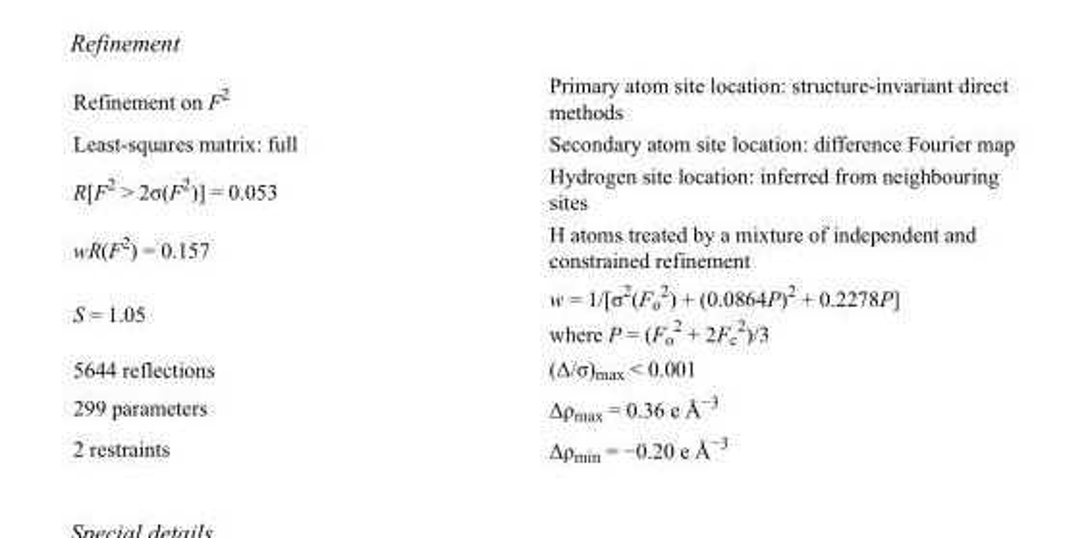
<table><tbody><tr><td>Refinement on F<sup>2</sup></td><td>Primary atom site location: structure-invariant direct methods</td></tr><tr><td>Least-squares matrix: full</td><td>Secondary atom site location: difference Fourier map</td></tr><tr><td>R[F<sup>2</sup> &gt; 2σ(F<sup>2</sup>)] = 0.053</td><td>Hydrogen site location: inferred from neighbouring sites</td></tr><tr><td>wR(F<sup>2</sup>) = 0.157</td><td>H atoms treated by a mixture of independent and constrained refinement</td></tr><tr><td>S = 1.05</td><td>w = 1/[σ<sup>2</sup>(F<sub>o</sub> <sup>2</sup>) + (0.0864P)<sup>2</sup> + 0.2278P] where P = (F<sub>o</sub> <sup>2</sup> + 2F<sub>c</sub> <sup>2</sup>)/3</td></tr><tr><td>5644 reflections</td><td>(Δ/σ)<sub>max</sub> &lt; 0.001</td></tr><tr><td>299 parameters</td><td>Δρ<sub>max</sub> = 0.36 e Å<sup>−3</sup></td></tr><tr><td>2 restraints</td><td>Δρ<sub>min</sub> = −0.20 e Å<sup>−3</sup></td></tr></tbody></table>